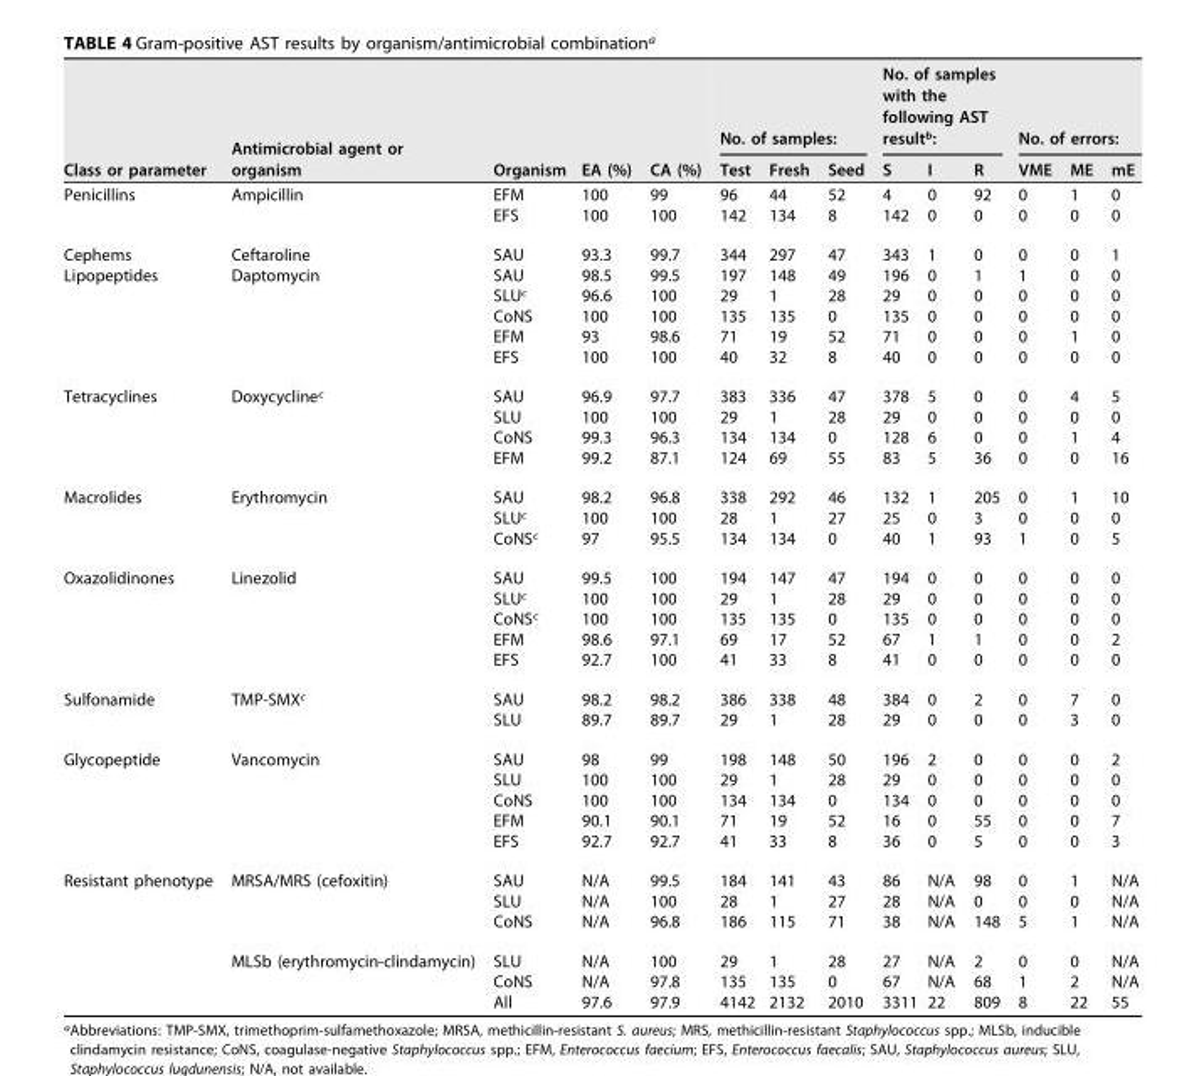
<table><thead><tr><td rowspan="2">Class or parameter</td><td rowspan="2">Antimicrobial agent or organism</td><td rowspan="2">Organism</td><td rowspan="2">EA (%)</td><td rowspan="2">CA (%)</td><td colspan="3">No. of samples:</td><td colspan="3">No. of samples with the following AST result<sup>b</sup>:</td><td colspan="3">No. of errors:</td></tr><tr><td>Test</td><td>Fresh</td><td>Seed</td><td>S</td><td>I</td><td>R</td><td>VME</td><td>ME</td><td>mE</td></tr></thead><tbody><tr><td rowspan="2">Penicillins</td><td>Ampicillin</td><td>EFM</td><td>100</td><td>99</td><td>96</td><td>44</td><td>52</td><td>4</td><td>0</td><td>92</td><td>0</td><td>1</td><td>0</td></tr><tr><td></td><td>EFS</td><td>100</td><td>100</td><td>142</td><td>134</td><td>8</td><td>142</td><td>0</td><td>0</td><td>0</td><td>0</td><td>0</td></tr><tr><td>Cephems</td><td>Ceftaroline</td><td>SAU</td><td>93.3</td><td>99.7</td><td>344</td><td>297</td><td>47</td><td>343</td><td>1</td><td>0</td><td>0</td><td>0</td><td>1</td></tr><tr><td rowspan="5">Lipopeptides</td><td>Daptomycin</td><td>SAU</td><td>98.5</td><td>99.5</td><td>197</td><td>148</td><td>49</td><td>196</td><td>0</td><td>1</td><td>1</td><td>0</td><td>0</td></tr><tr><td></td><td>SLU<sup>c</sup></td><td>96.6</td><td>100</td><td>29</td><td>1</td><td>28</td><td>29</td><td>0</td><td>0</td><td>0</td><td>0</td><td>0</td></tr><tr><td></td><td>CoNS</td><td>100</td><td>100</td><td>135</td><td>135</td><td>0</td><td>135</td><td>0</td><td>0</td><td>0</td><td>0</td><td>0</td></tr><tr><td></td><td>EFM</td><td>93</td><td>98.6</td><td>71</td><td>19</td><td>52</td><td>71</td><td>0</td><td>0</td><td>0</td><td>1</td><td>0</td></tr><tr><td></td><td>EFS</td><td>100</td><td>100</td><td>40</td><td>32</td><td>8</td><td>40</td><td>0</td><td>0</td><td>0</td><td>0</td><td>0</td></tr><tr><td rowspan="4">Tetracyclines</td><td>Doxycycline<sup>c</sup></td><td>SAU</td><td>96.9</td><td>97.7</td><td>383</td><td>336</td><td>47</td><td>378</td><td>5</td><td>0</td><td>0</td><td>4</td><td>5</td></tr><tr><td></td><td>SLU</td><td>100</td><td>100</td><td>29</td><td>1</td><td>28</td><td>29</td><td>0</td><td>0</td><td>0</td><td>0</td><td>0</td></tr><tr><td></td><td>CoNS</td><td>99.3</td><td>96.3</td><td>134</td><td>134</td><td>0</td><td>128</td><td>6</td><td>0</td><td>0</td><td>1</td><td>4</td></tr><tr><td></td><td>EFM</td><td>99.2</td><td>87.1</td><td>124</td><td>69</td><td>55</td><td>83</td><td>5</td><td>36</td><td>0</td><td>0</td><td>16</td></tr><tr><td rowspan="3">Macrolides</td><td>Erythromycin</td><td>SAU</td><td>98.2</td><td>96.8</td><td>338</td><td>292</td><td>46</td><td>132</td><td>1</td><td>205</td><td>0</td><td>1</td><td>10</td></tr><tr><td></td><td>SLU<sup>c</sup></td><td>100</td><td>100</td><td>28</td><td>1</td><td>27</td><td>25</td><td>0</td><td>3</td><td>0</td><td>0</td><td>0</td></tr><tr><td></td><td>CoNS<sup>c</sup></td><td>97</td><td>95.5</td><td>134</td><td>134</td><td>0</td><td>40</td><td>1</td><td>93</td><td>1</td><td>0</td><td>5</td></tr><tr><td rowspan="5">Oxazolidinones</td><td>Linezolid</td><td>SAU</td><td>99.5</td><td>100</td><td>194</td><td>147</td><td>47</td><td>194</td><td>0</td><td>0</td><td>0</td><td>0</td><td>0</td></tr><tr><td></td><td>SLU<sup>c</sup></td><td>100</td><td>100</td><td>29</td><td>1</td><td>28</td><td>29</td><td>0</td><td>0</td><td>0</td><td>0</td><td>0</td></tr><tr><td></td><td>CoNS<sup>c</sup></td><td>100</td><td>100</td><td>135</td><td>135</td><td>0</td><td>135</td><td>0</td><td>0</td><td>0</td><td>0</td><td>0</td></tr><tr><td></td><td>EFM</td><td>98.6</td><td>97.1</td><td>69</td><td>17</td><td>52</td><td>67</td><td>1</td><td>1</td><td>0</td><td>0</td><td>2</td></tr><tr><td></td><td>EFS</td><td>92.7</td><td>100</td><td>41</td><td>33</td><td>8</td><td>41</td><td>0</td><td>0</td><td>0</td><td>0</td><td>0</td></tr><tr><td rowspan="2">Sulfonamide</td><td>TMP-SMX<sup>c</sup></td><td>SAU</td><td>98.2</td><td>98.2</td><td>386</td><td>338</td><td>48</td><td>384</td><td>0</td><td>2</td><td>0</td><td>7</td><td>0</td></tr><tr><td></td><td>SLU</td><td>89.7</td><td>89.7</td><td>29</td><td>1</td><td>28</td><td>29</td><td>0</td><td>0</td><td>0</td><td>3</td><td>0</td></tr><tr><td rowspan="5">Glycopeptide</td><td>Vancomycin</td><td>SAU</td><td>98</td><td>99</td><td>198</td><td>148</td><td>50</td><td>196</td><td>2</td><td>0</td><td>0</td><td>0</td><td>2</td></tr><tr><td></td><td>SLU</td><td>100</td><td>100</td><td>29</td><td>1</td><td>28</td><td>29</td><td>0</td><td>0</td><td>0</td><td>0</td><td>0</td></tr><tr><td></td><td>CoNS</td><td>100</td><td>100</td><td>134</td><td>134</td><td>0</td><td>134</td><td>0</td><td>0</td><td>0</td><td>0</td><td>0</td></tr><tr><td></td><td>EFM</td><td>90.1</td><td>90.1</td><td>71</td><td>19</td><td>52</td><td>16</td><td>0</td><td>55</td><td>0</td><td>0</td><td>7</td></tr><tr><td></td><td>EFS</td><td>92.7</td><td>92.7</td><td>41</td><td>33</td><td>8</td><td>36</td><td>0</td><td>5</td><td>0</td><td>0</td><td>3</td></tr><tr><td rowspan="6">Resistant phenotype</td><td>MRSA/MRS (cefoxitin)</td><td>SAU</td><td>N/A</td><td>99.5</td><td>184</td><td>141</td><td>43</td><td>86</td><td>N/A</td><td>98</td><td>0</td><td>1</td><td>N/A</td></tr><tr><td></td><td>SLU</td><td>N/A</td><td>100</td><td>28</td><td>1</td><td>27</td><td>28</td><td>N/A</td><td>0</td><td>0</td><td>0</td><td>N/A</td></tr><tr><td></td><td>CoNS</td><td>N/A</td><td>96.8</td><td>186</td><td>115</td><td>71</td><td>38</td><td>N/A</td><td>148</td><td>5</td><td>1</td><td>N/A</td></tr><tr><td>MLSb (erythromycin-clindamycin)</td><td>SLU</td><td>N/A</td><td>100</td><td>29</td><td>1</td><td>28</td><td>27</td><td>N/A</td><td>2</td><td>0</td><td>0</td><td>N/A</td></tr><tr><td></td><td>CoNS</td><td>N/A</td><td>97.8</td><td>135</td><td>135</td><td>0</td><td>67</td><td>N/A</td><td>68</td><td>1</td><td>2</td><td>N/A</td></tr><tr><td></td><td>All</td><td>97.6</td><td>97.9</td><td>4142</td><td>2132</td><td>2010</td><td>3311</td><td>22</td><td>809</td><td>8</td><td>22</td><td>55</td></tr></tbody></table>